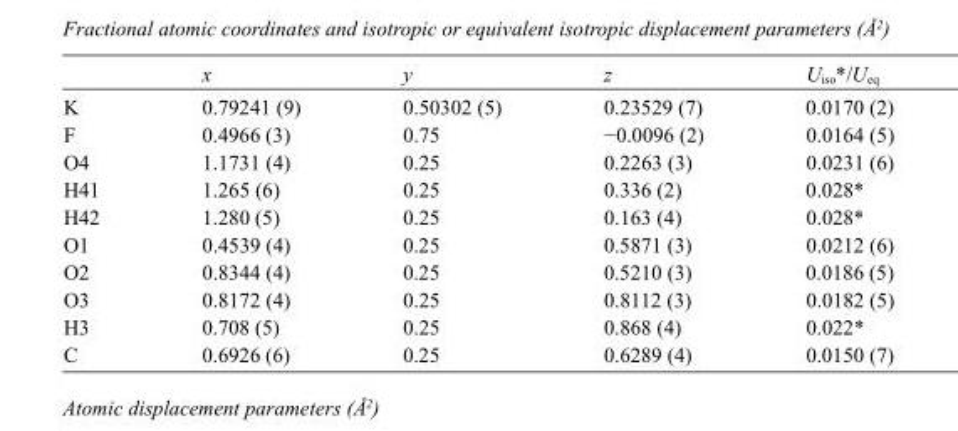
<table><thead><tr><td></td><td>x</td><td>y</td><td>z</td><td>U<sub>iso</sub>*/U<sub>eq</sub></td></tr></thead><tbody><tr><td>K</td><td>0.79241 (9)</td><td>0.50302 (5)</td><td>0.23529 (7)</td><td>0.0170 (2)</td></tr><tr><td>F</td><td>0.4966 (3)</td><td>0.75</td><td>−0.0096 (2)</td><td>0.0164 (5)</td></tr><tr><td>O4</td><td>1.1731 (4)</td><td>0.25</td><td>0.2263 (3)</td><td>0.0231 (6)</td></tr><tr><td>H41</td><td>1.265 (6)</td><td>0.25</td><td>0.336 (2)</td><td>0.028*</td></tr><tr><td>H42</td><td>1.280 (5)</td><td>0.25</td><td>0.163 (4)</td><td>0.028*</td></tr><tr><td>O1</td><td>0.4539 (4)</td><td>0.25</td><td>0.5871 (3)</td><td>0.0212 (6)</td></tr><tr><td>O2</td><td>0.8344 (4)</td><td>0.25</td><td>0.5210 (3)</td><td>0.0186 (5)</td></tr><tr><td>O3</td><td>0.8172 (4)</td><td>0.25</td><td>0.8112 (3)</td><td>0.0182 (5)</td></tr><tr><td>H3</td><td>0.708 (5)</td><td>0.25</td><td>0.868 (4)</td><td>0.022*</td></tr><tr><td>C</td><td>0.6926 (6)</td><td>0.25</td><td>0.6289 (4)</td><td>0.0150 (7)</td></tr></tbody></table>